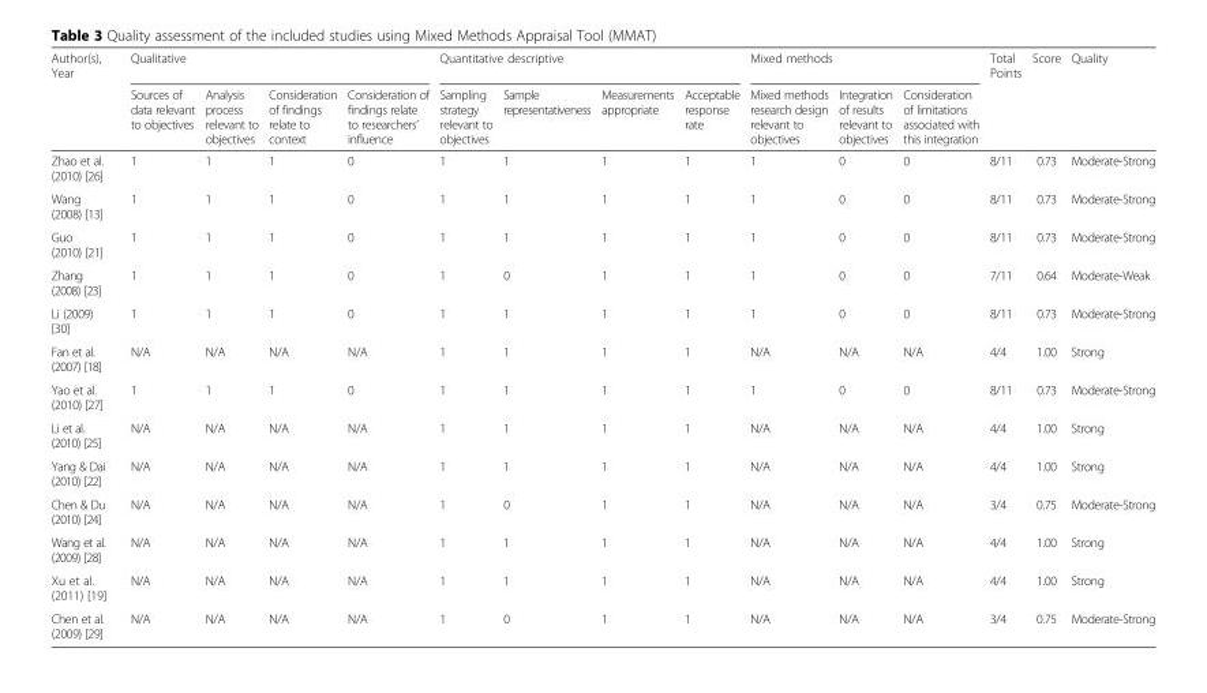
<table><thead><tr><td rowspan="2">Author(s), Year</td><td colspan="4">Qualitative</td><td colspan="4">Quantitative descriptive</td><td colspan="3">Mixed methods</td><td rowspan="2">Total Points</td><td rowspan="2">Score</td><td rowspan="2">Quality</td></tr><tr><td>Sources of data relevant to objectives</td><td>Analysis process relevant to objectives</td><td>Consideration of findings relate to context</td><td>Consideration of findings relate to researchers’ influence</td><td>Sampling strategy relevant to objectives</td><td>Sample representativeness</td><td>Measurements appropriate</td><td>Acceptable response rate</td><td>Mixed methods research design relevant to objectives</td><td>Integration of results relevant to objectives</td><td>Consideration of limitations associated with this integration</td></tr></thead><tbody><tr><td>Zhao et al. (2010) [26]</td><td>1</td><td>1</td><td>1</td><td>0</td><td>1</td><td>1</td><td>1</td><td>1</td><td>1</td><td>0</td><td>0</td><td>8/11</td><td>0.73</td><td>Moderate-Strong</td></tr><tr><td>Wang (2008) [13]</td><td>1</td><td>1</td><td>1</td><td>0</td><td>1</td><td>1</td><td>1</td><td>1</td><td>1</td><td>0</td><td>0</td><td>8/11</td><td>0.73</td><td>Moderate-Strong</td></tr><tr><td>Guo (2010) [21]</td><td>1</td><td>1</td><td>1</td><td>0</td><td>1</td><td>1</td><td>1</td><td>1</td><td>1</td><td>0</td><td>0</td><td>8/11</td><td>0.73</td><td>Moderate-Strong</td></tr><tr><td>Zhang (2008) [23]</td><td>1</td><td>1</td><td>1</td><td>0</td><td>1</td><td>0</td><td>1</td><td>1</td><td>1</td><td>0</td><td>0</td><td>7/11</td><td>0.64</td><td>Moderate-Weak</td></tr><tr><td>Li (2009) [30]</td><td>1</td><td>1</td><td>1</td><td>0</td><td>1</td><td>1</td><td>1</td><td>1</td><td>1</td><td>0</td><td>0</td><td>8/11</td><td>0.73</td><td>Moderate-Strong</td></tr><tr><td>Fan et al. (2007) [18]</td><td>N/A</td><td>N/A</td><td>N/A</td><td>N/A</td><td>1</td><td>1</td><td>1</td><td>1</td><td>N/A</td><td>N/A</td><td>N/A</td><td>4/4</td><td>1.00</td><td>Strong</td></tr><tr><td>Yao et al. (2010) [27]</td><td>1</td><td>1</td><td>1</td><td>0</td><td>1</td><td>1</td><td>1</td><td>1</td><td>1</td><td>0</td><td>0</td><td>8/11</td><td>0.73</td><td>Moderate-Strong</td></tr><tr><td>Li et al. (2010) [25]</td><td>N/A</td><td>N/A</td><td>N/A</td><td>N/A</td><td>1</td><td>1</td><td>1</td><td>1</td><td>N/A</td><td>N/A</td><td>N/A</td><td>4/4</td><td>1.00</td><td>Strong</td></tr><tr><td>Yang &amp; Dai (2010) [22]</td><td>N/A</td><td>N/A</td><td>N/A</td><td>N/A</td><td>1</td><td>1</td><td>1</td><td>1</td><td>N/A</td><td>N/A</td><td>N/A</td><td>4/4</td><td>1.00</td><td>Strong</td></tr><tr><td>Chen &amp; Du (2010) [24]</td><td>N/A</td><td>N/A</td><td>N/A</td><td>N/A</td><td>1</td><td>0</td><td>1</td><td>1</td><td>N/A</td><td>N/A</td><td>N/A</td><td>3/4</td><td>0.75</td><td>Moderate-Strong</td></tr><tr><td>Wang et al. (2009) [28]</td><td>N/A</td><td>N/A</td><td>N/A</td><td>N/A</td><td>1</td><td>1</td><td>1</td><td>1</td><td>N/A</td><td>N/A</td><td>N/A</td><td>4/4</td><td>1.00</td><td>Strong</td></tr><tr><td>Xu et al. (2011) [19]</td><td>N/A</td><td>N/A</td><td>N/A</td><td>N/A</td><td>1</td><td>1</td><td>1</td><td>1</td><td>N/A</td><td>N/A</td><td>N/A</td><td>4/4</td><td>1.00</td><td>Strong</td></tr><tr><td>Chen et al. (2009) [29]</td><td>N/A</td><td>N/A</td><td>N/A</td><td>N/A</td><td>1</td><td>0</td><td>1</td><td>1</td><td>N/A</td><td>N/A</td><td>N/A</td><td>3/4</td><td>0.75</td><td>Moderate-Strong</td></tr></tbody></table>